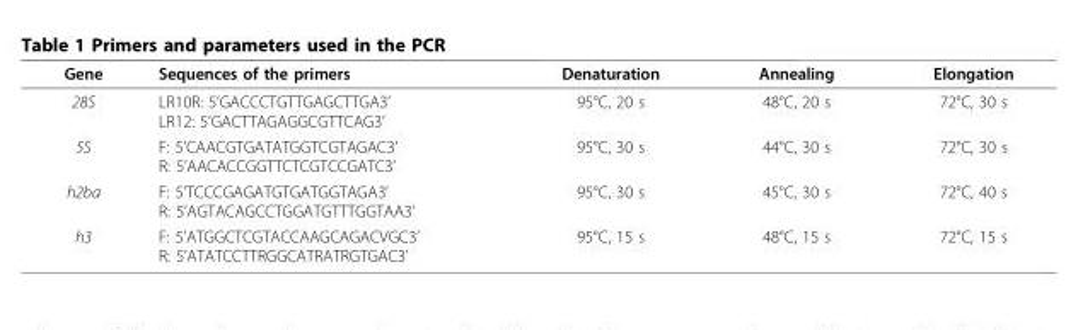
<table><thead><tr><td>Gene</td><td>Sequences of the primers</td><td>Denaturation</td><td>Annealing</td><td>Elongation</td></tr></thead><tbody><tr><td>28S</td><td>LR10R: 5’GACCCTGTTGAGCTTGA3’ LR12: 5’GACTTAGAGGCGTTCAG3’</td><td>95°C, 20 s</td><td>48°C, 20 s</td><td>72°C, 30 s</td></tr><tr><td>5S</td><td>F: 5’CAACGTGATATGGTCGTAGAC3’ R: 5’AACACCGGTTCTCGTCCGATC3’</td><td>95°C, 30 s</td><td>44°C, 30 s</td><td>72°C, 30 s</td></tr><tr><td>h2ba</td><td>F: 5’TCCCGAGATGTGATGGTAGA3’ R: 5’AGTACAGCCTGGATGTTTGGTAA3’</td><td>95°C, 30 s</td><td>45°C, 30 s</td><td>72°C, 40 s</td></tr><tr><td>h3</td><td>F: 5’ATGGCTCGTACCAAGCAGACVGC3’ R: 5’ATATCCTTRGGCATRATRGTGAC3’</td><td>95°C, 15 s</td><td>48°C, 15 s</td><td>72°C, 15 s</td></tr></tbody></table>